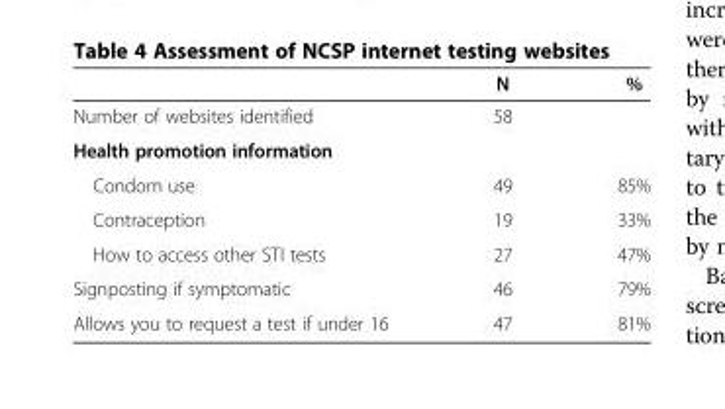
<table><thead><tr><td></td><td>N</td><td>%</td></tr></thead><tbody><tr><td>Number of websites identified</td><td>58</td><td></td></tr><tr><td colspan="3">Health promotion information</td></tr><tr><td>Condom use</td><td>49</td><td>85%</td></tr><tr><td>Contraception</td><td>19</td><td>33%</td></tr><tr><td>How to access other STI tests</td><td>27</td><td>47%</td></tr><tr><td>Signposting if symptomatic</td><td>46</td><td>79%</td></tr><tr><td>Allows you to request a test if under 16</td><td>47</td><td>81%</td></tr></tbody></table>